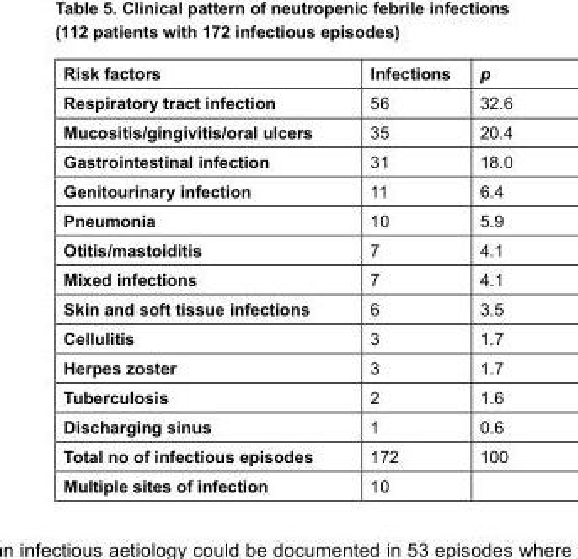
<table><thead><tr><td>Risk factors</td><td>Infections</td><td>p</td></tr></thead><tbody><tr><td>Respiratory tract infection</td><td>56</td><td>32.6</td></tr><tr><td>Mucositis/gingivitis/oral ulcers</td><td>35</td><td>20.4</td></tr><tr><td>Gastrointestinal infection</td><td>31</td><td>18.0</td></tr><tr><td>Genitourinary infection</td><td>11</td><td>6.4</td></tr><tr><td>Pneumonia</td><td>10</td><td>5.9</td></tr><tr><td>Otitis/mastoiditis</td><td>7</td><td>4.1</td></tr><tr><td>Mixed infections</td><td>7</td><td>4.1</td></tr><tr><td>Skin and soft tissue infections</td><td>6</td><td>3.5</td></tr><tr><td>Cellulitis</td><td>3</td><td>1.7</td></tr><tr><td>Herpes zoster</td><td>3</td><td>1.7</td></tr><tr><td>Tuberculosis</td><td>2</td><td>1.6</td></tr><tr><td>Discharging sinus</td><td>1</td><td>0.6</td></tr><tr><td>Total no of infectious episodes</td><td>172</td><td>100</td></tr><tr><td>Multiple sites of infection</td><td>10</td><td></td></tr></tbody></table>